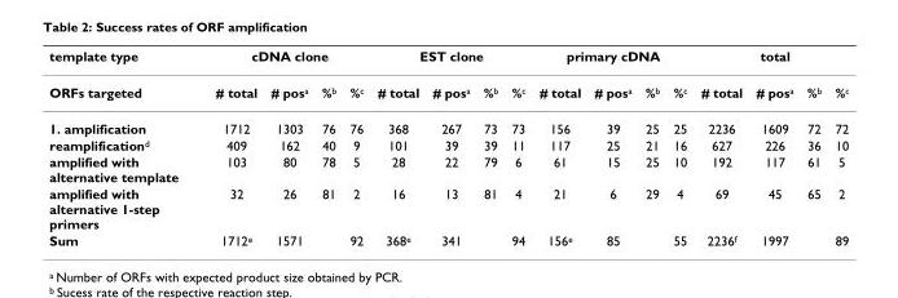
<table><thead><tr><td rowspan="2">template type ORFs targeted</td><td colspan="4">cDNA clone</td><td colspan="4">EST clone</td><td colspan="4">primary cDNA</td><td colspan="4">total</td></tr><tr><td># total</td><td># pos<sup>a</sup></td><td>%<sup>b</sup></td><td>%<sup>c</sup></td><td># total</td><td># pos<sup>a</sup></td><td>%<sup>b</sup></td><td>%<sup>c</sup></td><td># total</td><td># pos<sup>a</sup></td><td>%<sup>b</sup></td><td>%<sup>c</sup></td><td># total</td><td># pos<sup>a</sup></td><td>%<sup>b</sup></td><td>%<sup>c</sup></td></tr></thead><tbody><tr><td>1. amplification</td><td>1712</td><td>1303</td><td>76</td><td>76</td><td>368</td><td>267</td><td>73</td><td>73</td><td>156</td><td>39</td><td>25</td><td>25</td><td>2236</td><td>1609</td><td>72</td><td>72</td></tr><tr><td>reamplification<sup>d</sup></td><td>409</td><td>162</td><td>40</td><td>9</td><td>101</td><td>39</td><td>39</td><td>11</td><td>117</td><td>25</td><td>21</td><td>16</td><td>627</td><td>226</td><td>36</td><td>10</td></tr><tr><td>amplified with alternative template</td><td>103</td><td>80</td><td>78</td><td>5</td><td>28</td><td>22</td><td>79</td><td>6</td><td>61</td><td>15</td><td>25</td><td>10</td><td>192</td><td>117</td><td>61</td><td>5</td></tr><tr><td>amplified with alternative 1-step primers</td><td>32</td><td>26</td><td>81</td><td>2</td><td>16</td><td>13</td><td>81</td><td>4</td><td>21</td><td>6</td><td>29</td><td>4</td><td>69</td><td>45</td><td>65</td><td>2</td></tr><tr><td>Sum</td><td>1712<sup>e</sup></td><td>1571</td><td></td><td>92</td><td>368<sup>e</sup></td><td>341</td><td></td><td>94</td><td>156<sup>e</sup></td><td>85</td><td></td><td>55</td><td>2236<sup>f</sup></td><td>1997</td><td></td><td>89</td></tr></tbody></table>